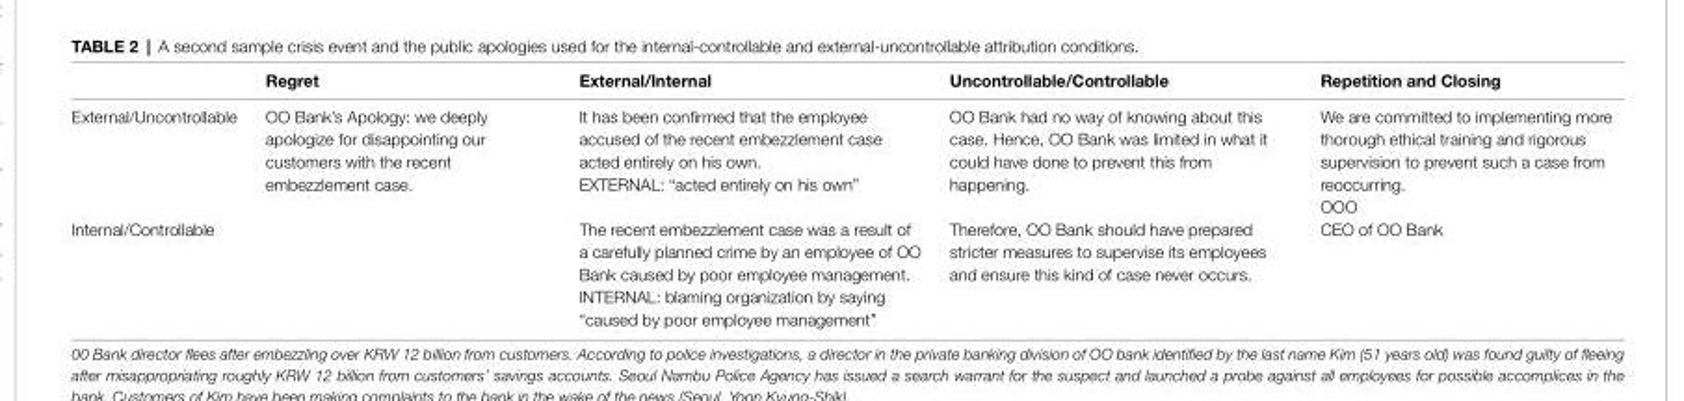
<table><thead><tr><td></td><td>Regret</td><td>External/Internal</td><td>Uncontrollable/Controllable</td><td>Repetition and Closing</td></tr></thead><tbody><tr><td>External/Uncontrollable</td><td>OO Bank’s Apology: we deeply apologize for disappointing our customers with the recent embezzlement case.</td><td>It has been confirmed that the employee accused of the recent embezzlement case acted entirely on his own. EXTERNAL: “acted entirely on his own”</td><td>OO Bank had no way of knowing about this case. Hence, OO Bank was limited in what it could have done to prevent this from happening.</td><td>We are committed to implementing more thorough ethical training and rigorous supervision to prevent such a case from reoccurring. OOO</td></tr><tr><td>Internal/Controllable</td><td></td><td>The recent embezzlement case was a result of a carefully planned crime by an employee of OO Bank caused by poor employee management. INTERNAL: blaming organization by saying “caused by poor employee management”</td><td>Therefore, OO Bank should have prepared stricter measures to supervise its employees and ensure this kind of case never occurs.</td><td>CEO of OO Bank</td></tr></tbody></table>